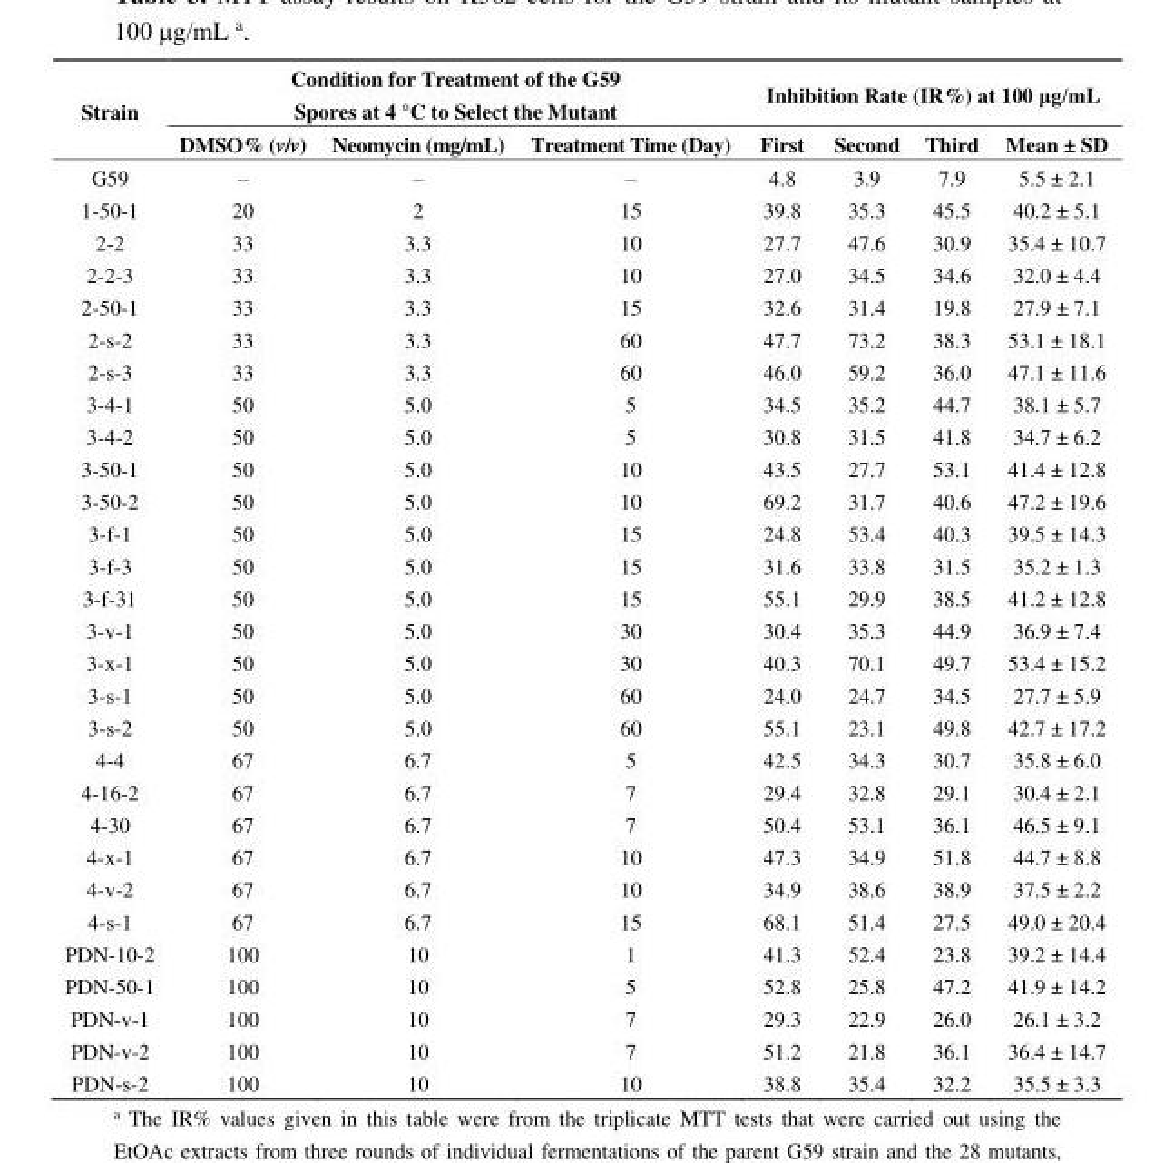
<table><thead><tr><td rowspan="2">Strain</td><td colspan="3">Condition for Treatment of the G59 Spores at 4 °C to Select the Mutant</td><td colspan="4">Inhibition Rate (IR%) at 100 μg/mL</td></tr><tr><td>DMSO% (v/v)</td><td>Neomycin (mg/mL)</td><td>Treatment Time (Day)</td><td>First</td><td>Second</td><td>Third</td><td>Mean ± SD</td></tr></thead><tbody><tr><td>G59</td><td>–</td><td>–</td><td>–</td><td>4.8</td><td>3.9</td><td>7.9</td><td>5.5 ± 2.1</td></tr><tr><td>1-50-1</td><td>20</td><td>2</td><td>15</td><td>39.8</td><td>35.3</td><td>45.5</td><td>40.2 ± 5.1</td></tr><tr><td>2-2</td><td>33</td><td>3.3</td><td>10</td><td>27.7</td><td>47.6</td><td>30.9</td><td>35.4 ± 10.7</td></tr><tr><td>2-2-3</td><td>33</td><td>3.3</td><td>10</td><td>27.0</td><td>34.5</td><td>34.6</td><td>32.0 ± 4.4</td></tr><tr><td>2-50-1</td><td>33</td><td>3.3</td><td>15</td><td>32.6</td><td>31.4</td><td>19.8</td><td>27.9 ± 7.1</td></tr><tr><td>2-s-2</td><td>33</td><td>3.3</td><td>60</td><td>47.7</td><td>73.2</td><td>38.3</td><td>53.1 ± 18.1</td></tr><tr><td>2-s-3</td><td>33</td><td>3.3</td><td>60</td><td>46.0</td><td>59.2</td><td>36.0</td><td>47.1 ± 11.6</td></tr><tr><td>3-4-1</td><td>50</td><td>5.0</td><td>5</td><td>34.5</td><td>35.2</td><td>44.7</td><td>38.1 ± 5.7</td></tr><tr><td>3-4-2</td><td>50</td><td>5.0</td><td>5</td><td>30.8</td><td>31.5</td><td>41.8</td><td>34.7 ± 6.2</td></tr><tr><td>3-50-1</td><td>50</td><td>5.0</td><td>10</td><td>43.5</td><td>27.7</td><td>53.1</td><td>41.4 ± 12.8</td></tr><tr><td>3-50-2</td><td>50</td><td>5.0</td><td>10</td><td>69.2</td><td>31.7</td><td>40.6</td><td>47.2 ± 19.6</td></tr><tr><td>3-f-1</td><td>50</td><td>5.0</td><td>15</td><td>24.8</td><td>53.4</td><td>40.3</td><td>39.5 ± 14.3</td></tr><tr><td>3-f-3</td><td>50</td><td>5.0</td><td>15</td><td>31.6</td><td>33.8</td><td>31.5</td><td>35.2 ± 1.3</td></tr><tr><td>3-f-31</td><td>50</td><td>5.0</td><td>15</td><td>55.1</td><td>29.9</td><td>38.5</td><td>41.2 ± 12.8</td></tr><tr><td>3-v-1</td><td>50</td><td>5.0</td><td>30</td><td>30.4</td><td>35.3</td><td>44.9</td><td>36.9 ± 7.4</td></tr><tr><td>3-x-1</td><td>50</td><td>5.0</td><td>30</td><td>40.3</td><td>70.1</td><td>49.7</td><td>53.4 ± 15.2</td></tr><tr><td>3-s-1</td><td>50</td><td>5.0</td><td>60</td><td>24.0</td><td>24.7</td><td>34.5</td><td>27.7 ± 5.9</td></tr><tr><td>3-s-2</td><td>50</td><td>5.0</td><td>60</td><td>55.1</td><td>23.1</td><td>49.8</td><td>42.7 ± 17.2</td></tr><tr><td>4-4</td><td>67</td><td>6.7</td><td>5</td><td>42.5</td><td>34.3</td><td>30.7</td><td>35.8 ± 6.0</td></tr><tr><td>4-16-2</td><td>67</td><td>6.7</td><td>7</td><td>29.4</td><td>32.8</td><td>29.1</td><td>30.4 ± 2.1</td></tr><tr><td>4-30</td><td>67</td><td>6.7</td><td>7</td><td>50.4</td><td>53.1</td><td>36.1</td><td>46.5 ± 9.1</td></tr><tr><td>4-x-1</td><td>67</td><td>6.7</td><td>10</td><td>47.3</td><td>34.9</td><td>51.8</td><td>44.7 ± 8.8</td></tr><tr><td>4-v-2</td><td>67</td><td>6.7</td><td>10</td><td>34.9</td><td>38.6</td><td>38.9</td><td>37.5 ± 2.2</td></tr><tr><td>4-s-1</td><td>67</td><td>6.7</td><td>15</td><td>68.1</td><td>51.4</td><td>27.5</td><td>49.0 ± 20.4</td></tr><tr><td>PDN-10-2</td><td>100</td><td>10</td><td>1</td><td>41.3</td><td>52.4</td><td>23.8</td><td>39.2 ± 14.4</td></tr><tr><td>PDN-50-1</td><td>100</td><td>10</td><td>5</td><td>52.8</td><td>25.8</td><td>47.2</td><td>41.9 ± 14.2</td></tr><tr><td>PDN-v-1</td><td>100</td><td>10</td><td>7</td><td>29.3</td><td>22.9</td><td>26.0</td><td>26.1 ± 3.2</td></tr><tr><td>PDN-v-2</td><td>100</td><td>10</td><td>7</td><td>51.2</td><td>21.8</td><td>36.1</td><td>36.4 ± 14.7</td></tr><tr><td>PDN-s-2</td><td>100</td><td>10</td><td>10</td><td>38.8</td><td>35.4</td><td>32.2</td><td>35.5 ± 3.3</td></tr></tbody></table>